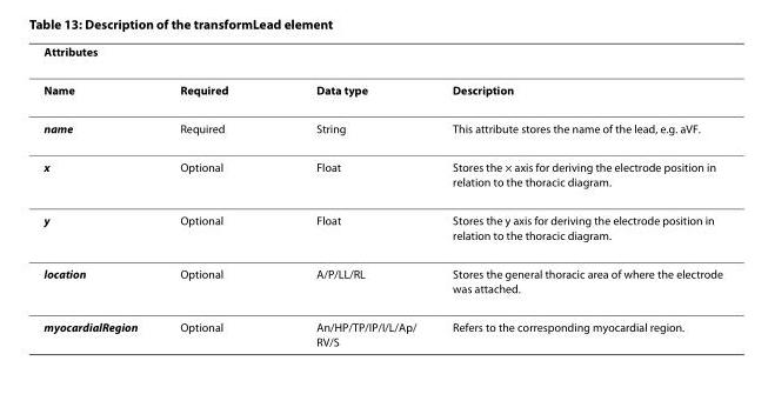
<table><thead><tr><td>Attributes</td><td></td><td></td><td></td></tr></thead><tbody><tr><td>Name</td><td>Required</td><td>Data type</td><td>Description</td></tr><tr><td>name</td><td>Required</td><td>String</td><td>This attribute stores the name of the lead, e.g. aVF.</td></tr><tr><td>x</td><td>Optional</td><td>Float</td><td>Stores the × axis for deriving the electrode position in relation to the thoracic diagram.</td></tr><tr><td>y</td><td>Optional</td><td>Float</td><td>Stores the y axis for deriving the electrode position in relation to the thoracic diagram.</td></tr><tr><td>location</td><td>Optional</td><td>A/P/LL/RL</td><td>Stores the general thoracic area of where the electrode was attached.</td></tr><tr><td>myocardialRegion</td><td>Optional</td><td>An/HP/TP/IP/I/L/Ap/ RV/S</td><td>Refers to the corresponding myocardial region.</td></tr></tbody></table>